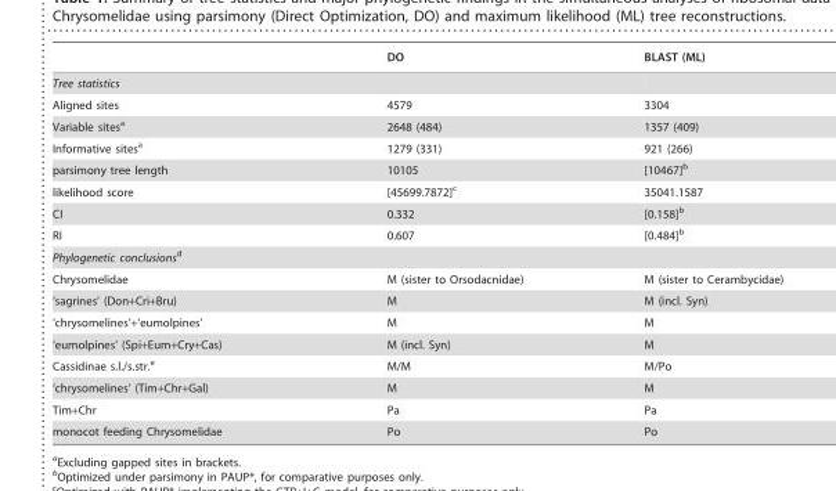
<table><thead><tr><td></td><td>DO</td><td>BLAST (ML)</td></tr></thead><tbody><tr><td colspan="3">Tree statistics</td></tr><tr><td>Aligned sites</td><td>4579</td><td>3304</td></tr><tr><td>Variable sites<sup>a</sup></td><td>2648 (484)</td><td>1357 (409)</td></tr><tr><td>Informative sites<sup>a</sup></td><td>1279 (331)</td><td>921 (266)</td></tr><tr><td>parsimony tree length</td><td>10105</td><td>[10467]<sup>b</sup></td></tr><tr><td>likelihood score</td><td>[45699.7872]<sup>c</sup></td><td>35041.1587</td></tr><tr><td>CI</td><td>0.332</td><td>[0.158]<sup>b</sup></td></tr><tr><td>RI</td><td>0.607</td><td>[0.484]<sup>b</sup></td></tr><tr><td colspan="3">Phylogenetic conclusionsd</td></tr><tr><td>Chrysomelidae</td><td>M (sister to Orsodacnidae)</td><td>M (sister to Cerambycidae)</td></tr><tr><td>‘sagrines’ (Don+Cri+Bru)</td><td>M</td><td>M (incl. Syn)</td></tr><tr><td>‘chrysomelines’+‘eumolpines’</td><td>M</td><td>M</td></tr><tr><td>‘eumolpines’ (Spi+Eum+Cry+Cas)</td><td>M (incl. Syn)</td><td>M</td></tr><tr><td>Cassidinae s.l./s.str.<sup>e</sup></td><td>M/M</td><td>M/Po</td></tr><tr><td>‘chrysomelines’ (Tim+Chr+Gal)</td><td>M</td><td>M</td></tr><tr><td>Tim+Chr</td><td>Pa</td><td>Pa</td></tr><tr><td>monocot feeding Chrysomelidae</td><td>Po</td><td>Po</td></tr></tbody></table>